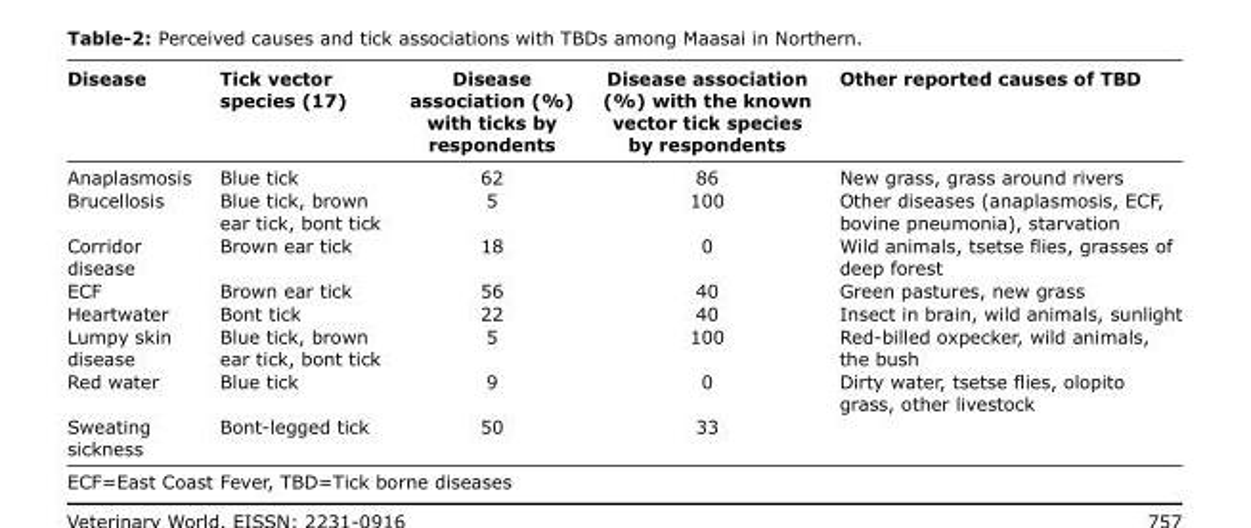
<table><thead><tr><td>Disease</td><td>Tick vector species (17)</td><td>Disease association (%) with ticks by respondents</td><td>Disease association (%) with the known vector tick species by respondents</td><td>Other reported causes of TBD</td></tr></thead><tbody><tr><td>Anaplasmosis</td><td>Blue tick</td><td>62</td><td>86</td><td>New grass, grass around rivers</td></tr><tr><td>Brucellosis</td><td>Blue tick, brown ear tick, bont tick</td><td>5</td><td>100</td><td>Other diseases (anaplasmosis, ECF, bovine pneumonia), starvation</td></tr><tr><td>Corridor disease</td><td>Brown ear tick</td><td>18</td><td>0</td><td>Wild animals, tsetse flies, grasses of deep forest</td></tr><tr><td>ECF</td><td>Brown ear tick</td><td>56</td><td>40</td><td>Green pastures, new grass</td></tr><tr><td>Heartwater</td><td>Bont tick</td><td>22</td><td>40</td><td>Insect in brain, wild animals, sunlight</td></tr><tr><td>Lumpy skin disease</td><td>Blue tick, brown ear tick, bont tick</td><td>5</td><td>100</td><td>Red-billed oxpecker, wild animals, the bush</td></tr><tr><td>Red water</td><td>Blue tick</td><td>9</td><td>0</td><td>Dirty water, tsetse flies, olopito grass, other livestock</td></tr><tr><td>Sweating sickness</td><td>Bont-legged tick</td><td>50</td><td>33</td><td></td></tr></tbody></table>